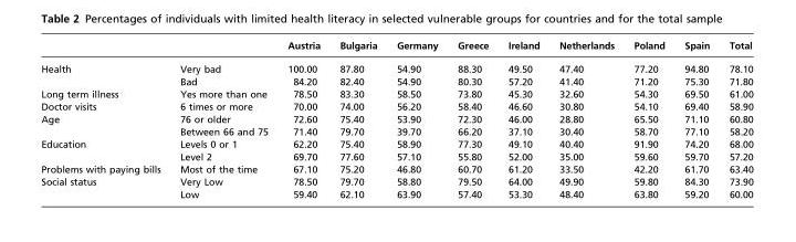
<table><thead><tr><td></td><td></td><td>Austria</td><td>Bulgaria</td><td>Germany</td><td>Greece</td><td>Ireland</td><td>Netherlands</td><td>Poland</td><td>Spain</td><td>Total</td></tr></thead><tbody><tr><td rowspan="2">Health</td><td>Very bad</td><td>100.00</td><td>87.80</td><td>54.90</td><td>88.30</td><td>49.50</td><td>47.40</td><td>77.20</td><td>94.80</td><td>78.10</td></tr><tr><td>Bad</td><td>84.20</td><td>82.40</td><td>54.90</td><td>80.30</td><td>57.20</td><td>41.40</td><td>71.20</td><td>75.30</td><td>71.80</td></tr><tr><td>Long term illness</td><td>Yes more than one</td><td>78.50</td><td>83.30</td><td>58.50</td><td>73.80</td><td>45.30</td><td>32.60</td><td>54.30</td><td>69.50</td><td>61.00</td></tr><tr><td>Doctor visits</td><td>6 times or more</td><td>70.00</td><td>74.00</td><td>56.20</td><td>58.40</td><td>46.60</td><td>30.80</td><td>54.10</td><td>69.40</td><td>58.90</td></tr><tr><td rowspan="2">Age</td><td>76 or older</td><td>72.60</td><td>75.40</td><td>53.90</td><td>72.30</td><td>46.00</td><td>28.80</td><td>65.50</td><td>71.10</td><td>60.80</td></tr><tr><td>Between 66 and 75</td><td>71.40</td><td>79.70</td><td>39.70</td><td>66.20</td><td>37.10</td><td>30.40</td><td>58.70</td><td>77.10</td><td>58.20</td></tr><tr><td rowspan="2">Education</td><td>Levels 0 or 1</td><td>62.20</td><td>75.40</td><td>58.90</td><td>77.30</td><td>49.10</td><td>40.40</td><td>91.90</td><td>74.20</td><td>68.00</td></tr><tr><td>Level 2</td><td>69.70</td><td>77.60</td><td>57.10</td><td>55.80</td><td>52.00</td><td>35.00</td><td>59.60</td><td>59.70</td><td>57.20</td></tr><tr><td>Problems with paying bills</td><td>Most of the time</td><td>67.10</td><td>75.20</td><td>46.80</td><td>60.70</td><td>61.20</td><td>33.50</td><td>42.20</td><td>61.70</td><td>63.40</td></tr><tr><td rowspan="2">Social status</td><td>Very Low</td><td>78.50</td><td>79.70</td><td>58.80</td><td>79.50</td><td>64.00</td><td>49.90</td><td>59.80</td><td>84.30</td><td>73.90</td></tr><tr><td>Low</td><td>59.40</td><td>62.10</td><td>63.90</td><td>57.40</td><td>53.30</td><td>48.40</td><td>63.80</td><td>59.20</td><td>60.00</td></tr></tbody></table>